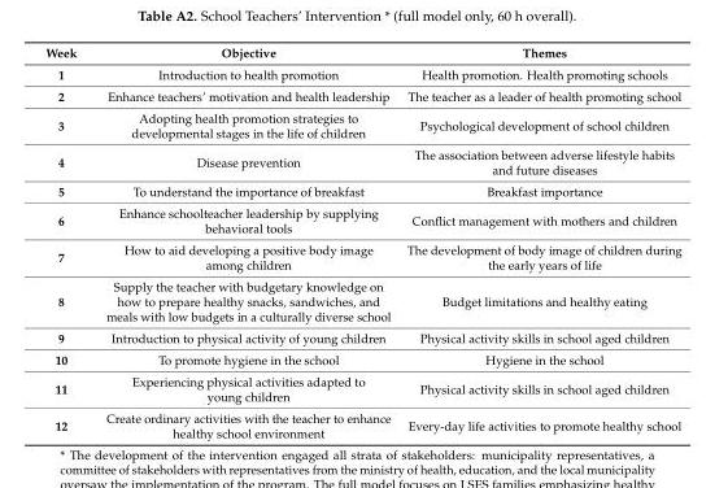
<table><thead><tr><td>Week</td><td>Objective</td><td>Themes</td></tr></thead><tbody><tr><td>1</td><td>Introduction to health promotion</td><td>Health promotion. Health promoting schools</td></tr><tr><td>2</td><td>Enhance teachers’ motivation and health leadership</td><td>The teacher as a leader of health promoting school</td></tr><tr><td>3</td><td>Adopting health promotion strategies to developmental stages in the life of children</td><td>Psychological development of school children</td></tr><tr><td>4</td><td>Disease prevention</td><td>The association between adverse lifestyle habits and future diseases</td></tr><tr><td>5</td><td>To understand the importance of breakfast</td><td>Breakfast importance</td></tr><tr><td>6</td><td>Enhance schoolteacher leadership by supplying behavioral tools</td><td>Conflict management with mothers and children</td></tr><tr><td>7</td><td>How to aid developing a positive body image among children</td><td>The development of body image of children during the early years of life</td></tr><tr><td>8</td><td>Supply the teacher with budgetary knowledge on how to prepare healthy snacks, sandwiches, and meals with low budgets in a culturally diverse school</td><td>Budget limitations and healthy eating</td></tr><tr><td>9</td><td>Introduction to physical activity of young children</td><td>Physical activity skills in school aged children</td></tr><tr><td>10</td><td>To promote hygiene in the school</td><td>Hygiene in the school</td></tr><tr><td>11</td><td>Experiencing physical activities adapted to young children</td><td>Physical activity skills in school aged children</td></tr><tr><td>12</td><td>Create ordinary activities with the teacher to enhance healthy school environment</td><td>Every-day life activities to promote healthy school</td></tr></tbody></table>